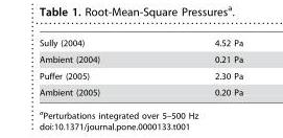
<table><tbody><tr><td>Sully (2004)</td><td>4.52 Pa</td></tr><tr><td>Ambient (2004)</td><td>0.21 Pa</td></tr><tr><td>Puffer (2005)</td><td>2.30 Pa</td></tr><tr><td>Ambient (2005)</td><td>0.20 Pa</td></tr></tbody></table>